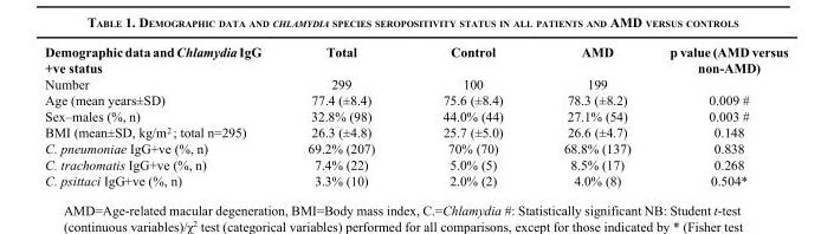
<table><thead><tr><td>Demographic data and Chlamydia IgG +ve status</td><td>Total</td><td>Control</td><td>AMD</td><td>p value (AMD versus non-AMD)</td></tr></thead><tbody><tr><td>Number</td><td>299</td><td>100</td><td>199</td><td></td></tr><tr><td>Age (mean years±SD)</td><td>77.4 (±8.4)</td><td>75.6 (±8.4)</td><td>78.3 (±8.2)</td><td>0.009 #</td></tr><tr><td>Sex–males (%, n)</td><td>32.8% (98)</td><td>44.0% (44)</td><td>27.1% (54)</td><td>0.003 #</td></tr><tr><td>BMI (mean±SD, kg/m ; total n=295) 2</td><td>26.3 (±4.8)</td><td>25.7 (±5.0)</td><td>26.6 (±4.7)</td><td>0.148</td></tr><tr><td>C. pneumoniae IgG+ve (%, n)</td><td>69.2% (207)</td><td>70% (70)</td><td>68.8% (137)</td><td>0.838</td></tr><tr><td>C. trachomatis IgG+ve (%, n)</td><td>7.4% (22)</td><td>5.0% (5)</td><td>8.5% (17)</td><td>0.268</td></tr><tr><td>C. psittaci IgG+ve (%, n)</td><td>3.3% (10)</td><td>2.0% (2)</td><td>4.0% (8)</td><td>0.504*</td></tr></tbody></table>